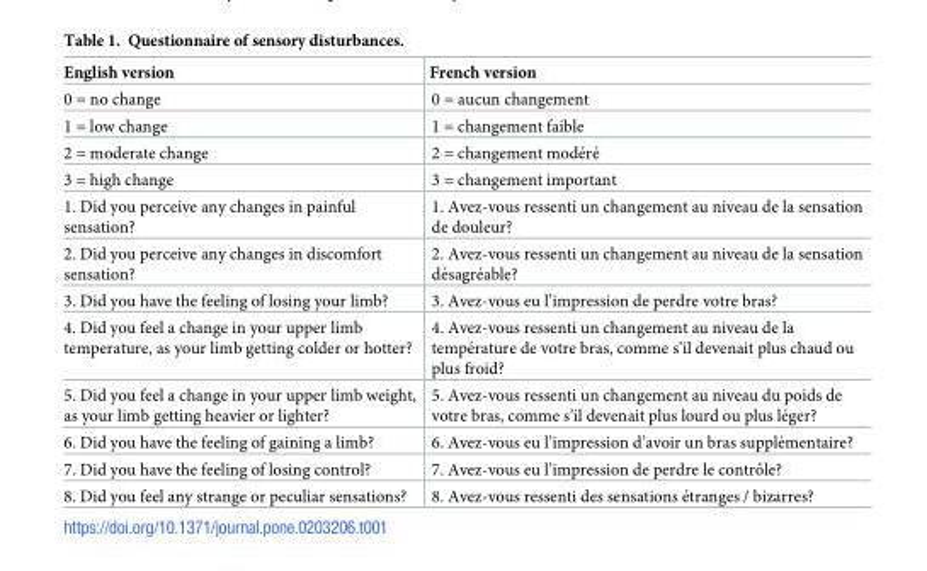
<table><thead><tr><td>English version</td><td>French version</td></tr></thead><tbody><tr><td>0 = no change</td><td>0 = aucun changement</td></tr><tr><td>1 = low change</td><td>1 = changement faible</td></tr><tr><td>2 = moderate change</td><td>2 = changement mode´re´</td></tr><tr><td>3 = high change</td><td>3 = changement important</td></tr><tr><td>1. Did you perceive any changes in painful sensation?</td><td>1. Avez-vous ressenti un changement au niveau de la sensation de douleur?</td></tr><tr><td>2. Did you perceive any changes in discomfort sensation?</td><td>2. Avez-vous ressenti un changement au niveau de la sensation de´sagre´able?</td></tr><tr><td>3. Did you have the feeling of losing your limb?</td><td>3. Avez-vous eu l’impression de perdre votre bras?</td></tr><tr><td>4. Did you feel a change in your upper limb temperature, as your limb getting colder or hotter?</td><td>4. Avez-vous ressenti un changement au niveau de la tempe´rature de votre bras, comme s’il devenait plus chaud ou plus froid?</td></tr><tr><td>5. Did you feel a change in your upper limb weight, as your limb getting heavier or lighter?</td><td>5. Avez-vous ressenti un changement au niveau du poids de votre bras, comme s’il devenait plus lourd ou plus le´ger?</td></tr><tr><td>6. Did you have the feeling of gaining a limb?</td><td>6. Avez-vous eu l’impression d’avoir un bras supple´mentaire?</td></tr><tr><td>7. Did you have the feeling of losing control?</td><td>7. Avez-vous eu l’impression de perdre le controˆle?</td></tr><tr><td>8. Did you feel any strange or peculiar sensations?</td><td>8. Avez-vous ressenti des sensations e´tranges / bizarres?</td></tr></tbody></table>